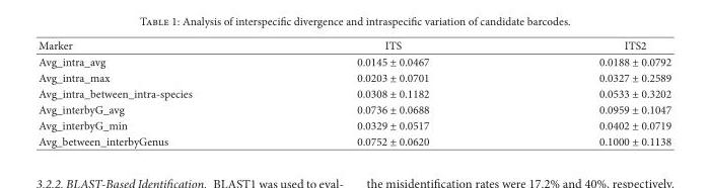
<table><thead><tr><td>Marker</td><td>ITS</td><td>ITS2</td></tr></thead><tbody><tr><td>Avg_intra_avg</td><td>0.0145 ± 0.0467</td><td>0.0188 ± 0.0792</td></tr><tr><td>Avg_intra_max</td><td>0.0203 ± 0.0701</td><td>0.0327 ± 0.2589</td></tr><tr><td>Avg_intra_between_intra-species</td><td>0.0308 ± 0.1182</td><td>0.0533 ± 0.3202</td></tr><tr><td>Avg_interbyG_avg</td><td>0.0736 ± 0.0688</td><td>0.0959 ± 0.1047</td></tr><tr><td>Avg_interbyG_min</td><td>0.0329 ± 0.0517</td><td>0.0402 ± 0.0719</td></tr><tr><td>Avg_between_interbyGenus</td><td>0.0752 ± 0.0620</td><td>0.1000 ± 0.1138</td></tr></tbody></table>